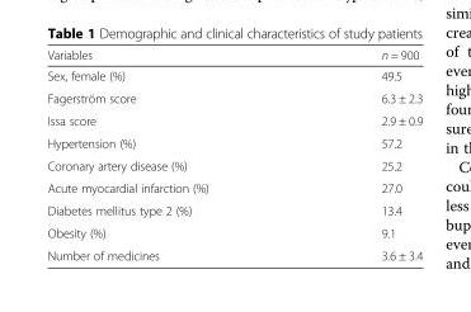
<table><thead><tr><td>Variables</td><td>n = 900</td></tr></thead><tbody><tr><td>Sex, female (%)</td><td>49.5</td></tr><tr><td>Fagerström score</td><td>6.3 ± 2.3</td></tr><tr><td>Issa score</td><td>2.9 ± 0.9</td></tr><tr><td>Hypertension (%)</td><td>57.2</td></tr><tr><td>Coronary artery disease (%)</td><td>25.2</td></tr><tr><td>Acute myocardial infarction (%)</td><td>27.0</td></tr><tr><td>Diabetes mellitus type 2 (%)</td><td>13.4</td></tr><tr><td>Obesity (%)</td><td>9.1</td></tr><tr><td>Number of medicines</td><td>3.6 ± 3.4</td></tr></tbody></table>